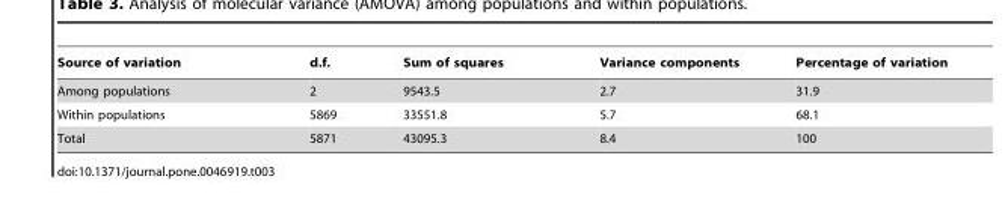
<table><thead><tr><td>Source of variation</td><td>d.f.</td><td>Sum of squares</td><td>Variance components</td><td>Percentage of variation</td></tr></thead><tbody><tr><td>Among populations</td><td>2</td><td>9543.5</td><td>2.7</td><td>31.9</td></tr><tr><td>Within populations</td><td>5869</td><td>33551.8</td><td>5.7</td><td>68.1</td></tr><tr><td>Total</td><td>5871</td><td>43095.3</td><td>8.4</td><td>100</td></tr></tbody></table>